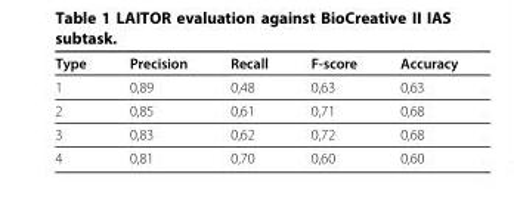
<table><thead><tr><td>Type</td><td>Precision</td><td>Recall</td><td>F-score</td><td>Accuracy</td></tr></thead><tbody><tr><td>1</td><td>0,89</td><td>0,48</td><td>0,63</td><td>0,63</td></tr><tr><td>2</td><td>0,85</td><td>0,61</td><td>0,71</td><td>0,68</td></tr><tr><td>3</td><td>0,83</td><td>0,62</td><td>0,72</td><td>0,68</td></tr><tr><td>4</td><td>0,81</td><td>0,70</td><td>0,60</td><td>0,60</td></tr></tbody></table>